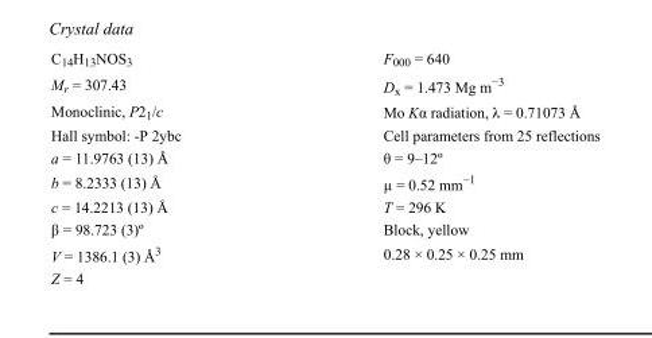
<table><tbody><tr><td>C<sub>14</sub>H<sub>13</sub>NOS<sub>3</sub></td><td>F000 = 640</td></tr><tr><td>M<sub>r</sub> = 307.43</td><td>D<sub>x</sub> = 1.473 Mg m<sup>−3</sup></td></tr><tr><td>Monoclinic, P2<sub>1</sub>/c</td><td>Mo Kα radiation, λ = 0.71073 Å</td></tr><tr><td>Hall symbol: -P 2ybc</td><td>Cell parameters from 25 reflections</td></tr><tr><td>a = 11.9763 (13) Å</td><td>θ = 9–12º</td></tr><tr><td>b = 8.2333 (13) Å</td><td>µ = 0.52 mm<sup>−1</sup></td></tr><tr><td>c = 14.2213 (13) Å</td><td>T = 296 K</td></tr><tr><td>β = 98.723 (3)º</td><td>Block, yellow</td></tr><tr><td>V = 1386.1 (3) Å<sup>3</sup></td><td>0.28 × 0.25 × 0.25 mm</td></tr><tr><td>Z = 4</td><td></td></tr></tbody></table>